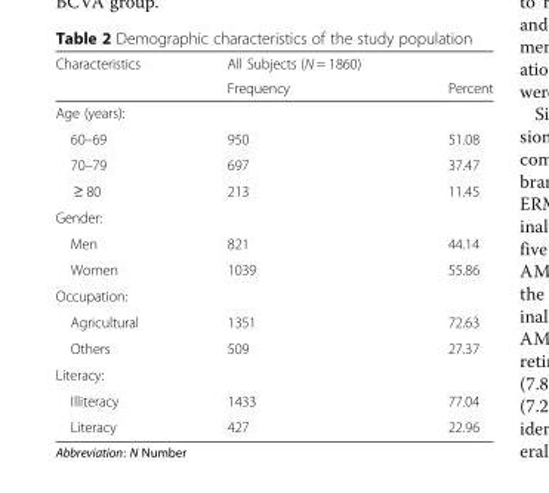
<table><thead><tr><td rowspan="2">Characteristics</td><td rowspan="2">All Subjects (N = 1860) Frequency</td><td rowspan="2">Percent</td></tr><tr></tr></thead><tbody><tr><td colspan="3">Age (years):</td></tr><tr><td>60–69</td><td>950</td><td>51.08</td></tr><tr><td>70–79</td><td>697</td><td>37.47</td></tr><tr><td>≥ 80</td><td>213</td><td>11.45</td></tr><tr><td colspan="3">Gender:</td></tr><tr><td>Men</td><td>821</td><td>44.14</td></tr><tr><td>Women</td><td>1039</td><td>55.86</td></tr><tr><td colspan="3">Occupation:</td></tr><tr><td>Agricultural</td><td>1351</td><td>72.63</td></tr><tr><td>Others</td><td>509</td><td>27.37</td></tr><tr><td colspan="3">Literacy:</td></tr><tr><td>Illiteracy</td><td>1433</td><td>77.04</td></tr><tr><td>Literacy</td><td>427</td><td>22.96</td></tr></tbody></table>